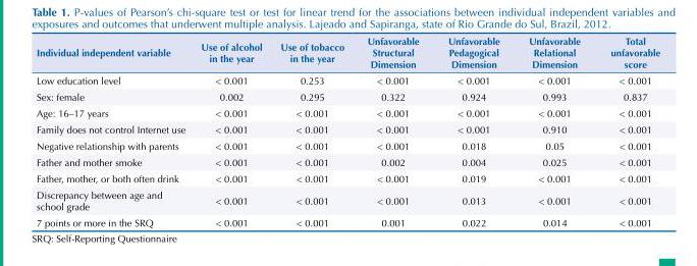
<table><thead><tr><td>Individual independent variable</td><td>Use of alcohol in the year</td><td>Use of tobacco in the year</td><td>Unfavorable Structural Dimension</td><td>Unfavorable Pedagogical Dimension</td><td>Unfavorable Relational Dimension</td><td>Total unfavorable score</td></tr></thead><tbody><tr><td>Low education level</td><td>&lt; 0.001</td><td>0.253</td><td>&lt; 0.001</td><td>&lt; 0.001</td><td>&lt; 0.001</td><td>&lt; 0.001</td></tr><tr><td>Sex: female</td><td>0.002</td><td>0.295</td><td>0.322</td><td>0.924</td><td>0.993</td><td>0.837</td></tr><tr><td>Age: 16–17 years</td><td>&lt; 0.001</td><td>&lt; 0.001</td><td>&lt; 0.001</td><td>&lt; 0.001</td><td>&lt; 0.001</td><td>&lt; 0.001</td></tr><tr><td>Family does not control Internet use</td><td>&lt; 0.001</td><td>&lt; 0.001</td><td>&lt; 0.001</td><td>&lt; 0.001</td><td>0.910</td><td>&lt; 0.001</td></tr><tr><td>Negative relationship with parents</td><td>&lt; 0.001</td><td>&lt; 0.001</td><td>&lt; 0.001</td><td>0.018</td><td>0.05</td><td>&lt; 0.001</td></tr><tr><td>Father and mother smoke</td><td>&lt; 0.001</td><td>&lt; 0.001</td><td>0.002</td><td>0.004</td><td>0.025</td><td>&lt; 0.001</td></tr><tr><td>Father, mother, or both often drink</td><td>&lt; 0.001</td><td>&lt; 0.001</td><td>&lt; 0.001</td><td>0.019</td><td>&lt; 0.001</td><td>&lt; 0.001</td></tr><tr><td>Discrepancy between age and school grade</td><td>&lt; 0.001</td><td>&lt; 0.001</td><td>&lt; 0.001</td><td>0.013</td><td>&lt; 0.001</td><td>&lt; 0.001</td></tr><tr><td>7 points or more in the SRQ</td><td>&lt; 0.001</td><td>&lt; 0.001</td><td>0.001</td><td>0.022</td><td>0.014</td><td>&lt; 0.001</td></tr></tbody></table>